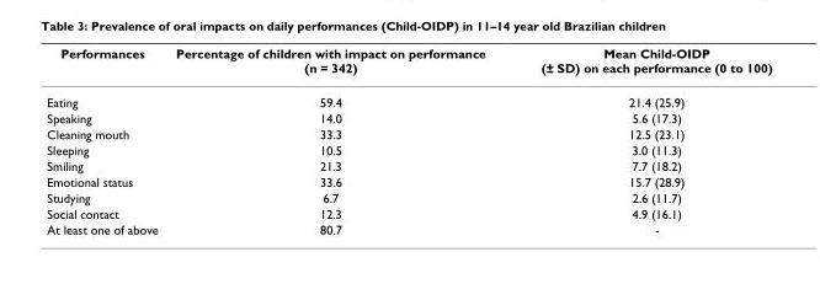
<table><thead><tr><td>Performances</td><td>Percentage of children with impact on performance (n = 342)</td><td>Mean Child-OIDP (± SD) on each performance (0 to 100)</td></tr></thead><tbody><tr><td>Eating</td><td>59.4</td><td>21.4 (25.9)</td></tr><tr><td>Speaking</td><td>14.0</td><td>5.6 (17.3)</td></tr><tr><td>Cleaning mouth</td><td>33.3</td><td>12.5 (23.1)</td></tr><tr><td>Sleeping</td><td>10.5</td><td>3.0 (11.3)</td></tr><tr><td>Smiling</td><td>21.3</td><td>7.7 (18.2)</td></tr><tr><td>Emotional status</td><td>33.6</td><td>15.7 (28.9)</td></tr><tr><td>Studying</td><td>6.7</td><td>2.6 (11.7)</td></tr><tr><td>Social contact</td><td>12.3</td><td>4.9 (16.1)</td></tr><tr><td>At least one of above</td><td>80.7</td><td>-</td></tr></tbody></table>